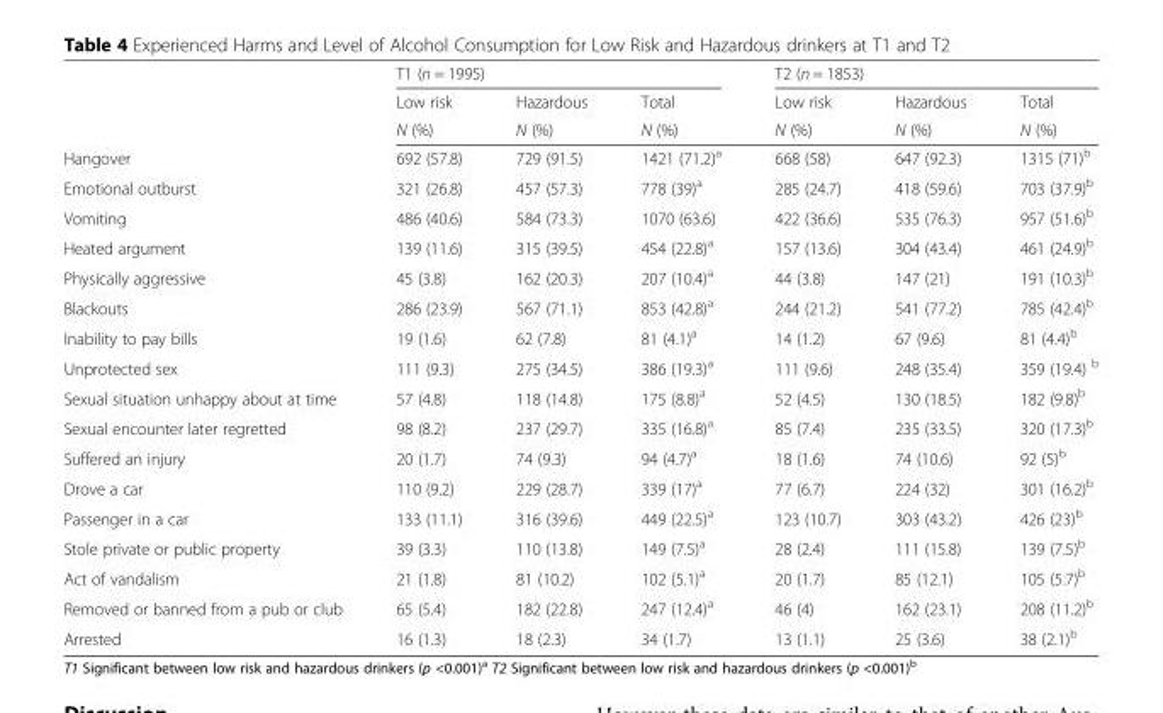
<table><thead><tr><td rowspan="3"></td><td colspan="3">T1 (n = 1995)</td><td colspan="3">T2 (n = 1853)</td></tr><tr><td rowspan="2">Low risk N (%)</td><td rowspan="2">Hazardous N (%)</td><td rowspan="2">Total N (%)</td><td rowspan="2">Low risk N (%)</td><td rowspan="2">Hazardous N (%)</td><td rowspan="2">Total N (%)</td></tr><tr></tr></thead><tbody><tr><td>Hangover</td><td>692 (57.8)</td><td>729 (91.5)</td><td>1421 (71.2)<sup>a</sup></td><td>668 (58)</td><td>647 (92.3)</td><td>1315 (71)<sup>b</sup></td></tr><tr><td>Emotional outburst</td><td>321 (26.8)</td><td>457 (57.3)</td><td>778 (39)<sup>a</sup></td><td>285 (24.7)</td><td>418 (59.6)</td><td>703 (37.9)<sup>b</sup></td></tr><tr><td>Vomiting</td><td>486 (40.6)</td><td>584 (73.3)</td><td>1070 (63.6)</td><td>422 (36.6)</td><td>535 (76.3)</td><td>957 (51.6)<sup>b</sup></td></tr><tr><td>Heated argument</td><td>139 (11.6)</td><td>315 (39.5)</td><td>454 (22.8)<sup>a</sup></td><td>157 (13.6)</td><td>304 (43.4)</td><td>461 (24.9)<sup>b</sup></td></tr><tr><td>Physically aggressive</td><td>45 (3.8)</td><td>162 (20.3)</td><td>207 (10.4)<sup>a</sup></td><td>44 (3.8)</td><td>147 (21)</td><td>191 (10.3)<sup>b</sup></td></tr><tr><td>Blackouts</td><td>286 (23.9)</td><td>567 (71.1)</td><td>853 (42.8)<sup>a</sup></td><td>244 (21.2)</td><td>541 (77.2)</td><td>785 (42.4)<sup>b</sup></td></tr><tr><td>Inability to pay bills</td><td>19 (1.6)</td><td>62 (7.8)</td><td>81 (4.1)<sup>a</sup></td><td>14 (1.2)</td><td>67 (9.6)</td><td>81 (4.4)<sup>b</sup></td></tr><tr><td>Unprotected sex</td><td>111 (9.3)</td><td>275 (34.5)</td><td>386 (19.3)<sup>a</sup></td><td>111 (9.6)</td><td>248 (35.4)</td><td>359 (19.4) <sup>b</sup></td></tr><tr><td>Sexual situation unhappy about at time</td><td>57 (4.8)</td><td>118 (14.8)</td><td>175 (8.8)<sup>a</sup></td><td>52 (4.5)</td><td>130 (18.5)</td><td>182 (9.8)<sup>b</sup></td></tr><tr><td>Sexual encounter later regretted</td><td>98 (8.2)</td><td>237 (29.7)</td><td>335 (16.8)<sup>a</sup></td><td>85 (7.4)</td><td>235 (33.5)</td><td>320 (17.3)<sup>b</sup></td></tr><tr><td>Suffered an injury</td><td>20 (1.7)</td><td>74 (9.3)</td><td>94 (4.7)<sup>a</sup></td><td>18 (1.6)</td><td>74 (10.6)</td><td>92 (5)<sup>b</sup></td></tr><tr><td>Drove a car</td><td>110 (9.2)</td><td>229 (28.7)</td><td>339 (17)<sup>a</sup></td><td>77 (6.7)</td><td>224 (32)</td><td>301 (16.2)<sup>b</sup></td></tr><tr><td>Passenger in a car</td><td>133 (11.1)</td><td>316 (39.6)</td><td>449 (22.5)<sup>a</sup></td><td>123 (10.7)</td><td>303 (43.2)</td><td>426 (23)<sup>b</sup></td></tr><tr><td>Stole private or public property</td><td>39 (3.3)</td><td>110 (13.8)</td><td>149 (7.5)<sup>a</sup></td><td>28 (2.4)</td><td>111 (15.8)</td><td>139 (7.5)<sup>b</sup></td></tr><tr><td>Act of vandalism</td><td>21 (1.8)</td><td>81 (10.2)</td><td>102 (5.1)<sup>a</sup></td><td>20 (1.7)</td><td>85 (12.1)</td><td>105 (5.7)<sup>b</sup></td></tr><tr><td>Removed or banned from a pub or club</td><td>65 (5.4)</td><td>182 (22.8)</td><td>247 (12.4)<sup>a</sup></td><td>46 (4)</td><td>162 (23.1)</td><td>208 (11.2)<sup>b</sup></td></tr><tr><td>Arrested</td><td>16 (1.3)</td><td>18 (2.3)</td><td>34 (1.7)</td><td>13 (1.1)</td><td>25 (3.6)</td><td>38 (2.1)<sup>b</sup></td></tr></tbody></table>